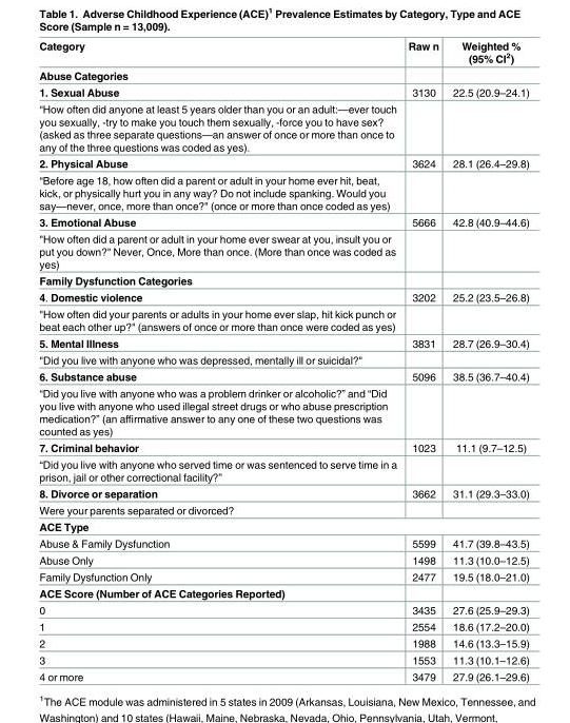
<table><thead><tr><td>Category</td><td>Raw n</td><td>Weighted % (95% CI<sup>2</sup>)</td></tr></thead><tbody><tr><td colspan="3">Abuse Categories</td></tr><tr><td>1. Sexual Abuse</td><td>3130</td><td>22.5 (20.9–24.1)</td></tr><tr><td colspan="3">“How often did anyone at least 5 years older than you or an adult:—ever touch you sexually, -try to make you touch them sexually, -force you to have sex? (asked as three separate questions—an answer of once or more than once to any of the three questions was coded as yes).</td></tr><tr><td>2. Physical Abuse</td><td>3624</td><td>28.1 (26.4–29.8)</td></tr><tr><td colspan="3">“Before age 18, how often did a parent or adult in your home ever hit, beat, kick, or physically hurt you in any way? Do not include spanking. Would you say—never, once, more than once?&quot; (once or more than once coded as yes)</td></tr><tr><td>3. Emotional Abuse</td><td>5666</td><td>42.8 (40.9–44.6)</td></tr><tr><td colspan="3">&quot;How often did a parent or adult in your home ever swear at you, insult you or put you down?&quot; Never, Once, More than once. (More than once was coded as yes)</td></tr><tr><td colspan="3">Family Dysfunction Categories</td></tr><tr><td>4. Domestic violence</td><td>3202</td><td>25.2 (23.5–26.8)</td></tr><tr><td colspan="3">&quot;How often did your parents or adults in your home ever slap, hit kick punch or beat each other up?&quot; (answers of once or more than once were coded as yes)</td></tr><tr><td>5. Mental Illness</td><td>3831</td><td>28.7 (26.9–30.4)</td></tr><tr><td colspan="3">&quot;Did you live with anyone who was depressed, mentally ill or suicidal?&quot;</td></tr><tr><td>6. Substance abuse</td><td>5096</td><td>38.5 (36.7–40.4)</td></tr><tr><td colspan="3">“Did you live with anyone who was a problem drinker or alcoholic?” and “Did you live with anyone who used illegal street drugs or who abuse prescription medication?” (an affirmative answer to any one of these two questions was counted as yes)</td></tr><tr><td>7. Criminal behavior</td><td>1023</td><td>11.1 (9.7–12.5)</td></tr><tr><td colspan="3">“Did you live with anyone who served time or was sentenced to serve time in a prison, jail or other correctional facility?”</td></tr><tr><td>8. Divorce or separation</td><td>3662</td><td>31.1 (29.3–33.0)</td></tr><tr><td colspan="3">Were your parents separated or divorced?</td></tr><tr><td colspan="3">ACE Type</td></tr><tr><td>Abuse &amp; Family Dysfunction</td><td>5599</td><td>41.7 (39.8–43.5)</td></tr><tr><td>Abuse Only</td><td>1498</td><td>11.3 (10.0–12.5)</td></tr><tr><td>Family Dysfunction Only</td><td>2477</td><td>19.5 (18.0–21.0)</td></tr><tr><td colspan="3">ACE Score (Number of ACE Categories Reported)</td></tr><tr><td>0</td><td>3435</td><td>27.6 (25.9–29.3)</td></tr><tr><td>1</td><td>2554</td><td>18.6 (17.2–20.0)</td></tr><tr><td>2</td><td>1988</td><td>14.6 (13.3–15.9)</td></tr><tr><td>3</td><td>1553</td><td>11.3 (10.1–12.6)</td></tr><tr><td>4 or more</td><td>3479</td><td>27.9 (26.1–29.6)</td></tr></tbody></table>